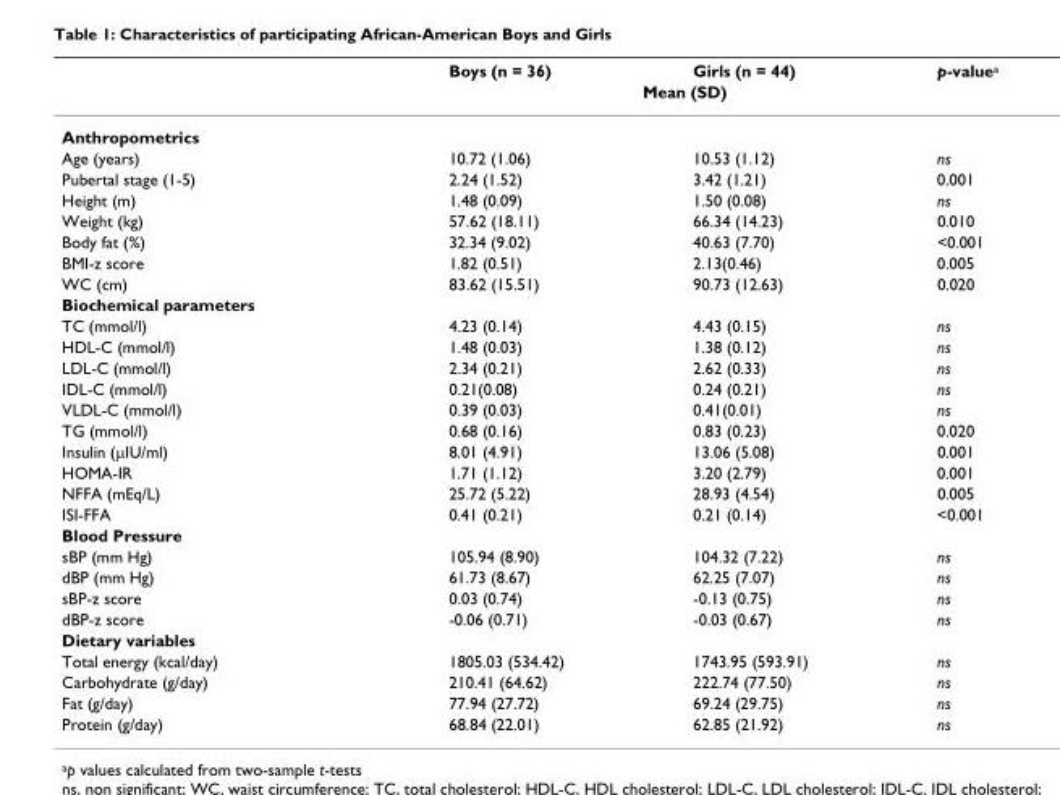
<table><thead><tr><td rowspan="2"></td><td>Boys (n = 36)</td><td>Girls (n = 44)</td><td rowspan="2">p-value<sup>a</sup></td></tr><tr><td colspan="2">Mean (SD)</td></tr></thead><tbody><tr><td colspan="4">Anthropometrics</td></tr><tr><td>Age (years)</td><td>10.72 (1.06)</td><td>10.53 (1.12)</td><td>ns</td></tr><tr><td>Pubertal stage (1-5)</td><td>2.24 (1.52)</td><td>3.42 (1.21)</td><td>0.001</td></tr><tr><td>Height (m)</td><td>1.48 (0.09)</td><td>1.50 (0.08)</td><td>ns</td></tr><tr><td>Weight (kg)</td><td>57.62 (18.11)</td><td>66.34 (14.23)</td><td>0.010</td></tr><tr><td>Body fat (%)</td><td>32.34 (9.02)</td><td>40.63 (7.70)</td><td>&lt;0.001</td></tr><tr><td>BMI-z score</td><td>1.82 (0.51)</td><td>2.13(0.46)</td><td>0.005</td></tr><tr><td>WC (cm)</td><td>83.62 (15.51)</td><td>90.73 (12.63)</td><td>0.020</td></tr><tr><td colspan="4">Biochemical parameters</td></tr><tr><td>TC (mmol/l)</td><td>4.23 (0.14)</td><td>4.43 (0.15)</td><td>ns</td></tr><tr><td>HDL-C (mmol/l)</td><td>1.48 (0.03)</td><td>1.38 (0.12)</td><td>ns</td></tr><tr><td>LDL-C (mmol/l)</td><td>2.34 (0.21)</td><td>2.62 (0.33)</td><td>ns</td></tr><tr><td>IDL-C (mmol/l)</td><td>0.21(0.08)</td><td>0.24 (0.21)</td><td>ns</td></tr><tr><td>VLDL-C (mmol/l)</td><td>0.39 (0.03)</td><td>0.41(0.01)</td><td>ns</td></tr><tr><td>TG (mmol/l)</td><td>0.68 (0.16)</td><td>0.83 (0.23)</td><td>0.020</td></tr><tr><td>Insulin (μIU/ml)</td><td>8.01 (4.91)</td><td>13.06 (5.08)</td><td>0.001</td></tr><tr><td>HOMA-IR</td><td>1.71 (1.12)</td><td>3.20 (2.79)</td><td>0.001</td></tr><tr><td>NFFA (mEq/L)</td><td>25.72 (5.22)</td><td>28.93 (4.54)</td><td>0.005</td></tr><tr><td>ISI-FFA</td><td>0.41 (0.21)</td><td>0.21 (0.14)</td><td>&lt;0.001</td></tr><tr><td colspan="4">Blood Pressure</td></tr><tr><td>sBP (mm Hg)</td><td>105.94 (8.90)</td><td>104.32 (7.22)</td><td>ns</td></tr><tr><td>dBP (mm Hg)</td><td>61.73 (8.67)</td><td>62.25 (7.07)</td><td>ns</td></tr><tr><td>sBP-z score</td><td>0.03 (0.74)</td><td>-0.13 (0.75)</td><td>ns</td></tr><tr><td>dBP-z score</td><td>-0.06 (0.71)</td><td>-0.03 (0.67)</td><td>ns</td></tr><tr><td colspan="4">Dietary variables</td></tr><tr><td>Total energy (kcal/day)</td><td>1805.03 (534.42)</td><td>1743.95 (593.91)</td><td>ns</td></tr><tr><td>Carbohydrate (g/day)</td><td>210.41 (64.62)</td><td>222.74 (77.50)</td><td>ns</td></tr><tr><td>Fat (g/day)</td><td>77.94 (27.72)</td><td>69.24 (29.75)</td><td>ns</td></tr><tr><td>Protein (g/day)</td><td>68.84 (22.01)</td><td>62.85 (21.92)</td><td>ns</td></tr></tbody></table>